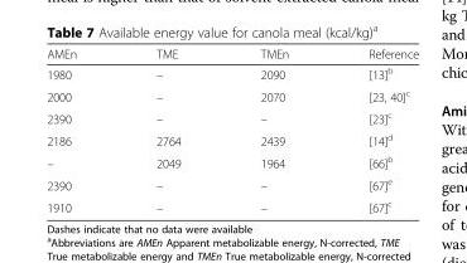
<table><thead><tr><td>AMEn</td><td>TME</td><td>TMEn</td><td>Reference</td></tr></thead><tbody><tr><td>1980</td><td>–</td><td>2090</td><td>[13]<sup>b</sup></td></tr><tr><td>2000</td><td>–</td><td>2070</td><td>[23, 40]<sup>c</sup></td></tr><tr><td>2390</td><td>–</td><td>–</td><td>[23]<sup>c</sup></td></tr><tr><td>2186</td><td>2764</td><td>2439</td><td>[14]<sup>d</sup></td></tr><tr><td>–</td><td>2049</td><td>1964</td><td>[66]<sup>b</sup></td></tr><tr><td>2390</td><td>–</td><td>–</td><td>[67]<sup>e</sup></td></tr><tr><td>1910</td><td>–</td><td>–</td><td>[67]<sup>c</sup></td></tr></tbody></table>